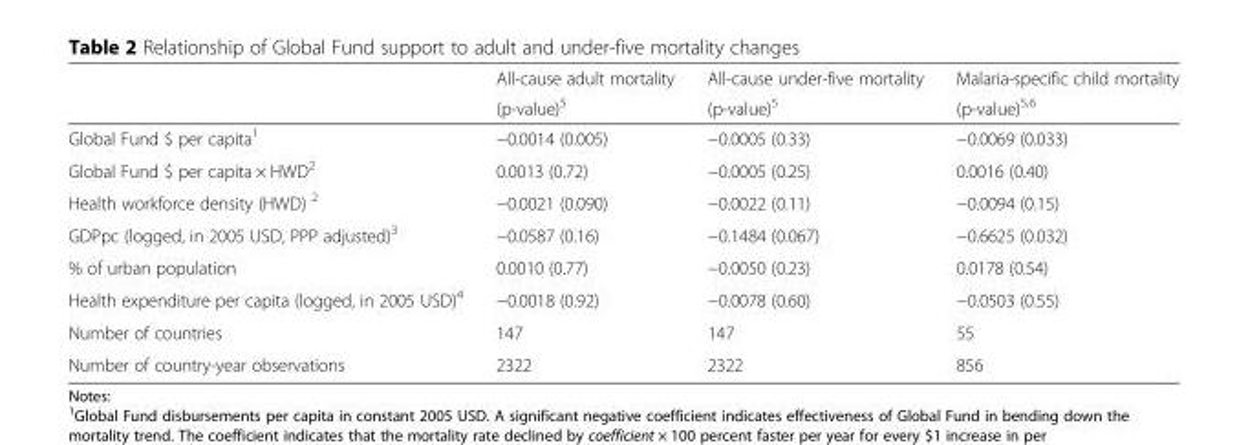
<table><thead><tr><td rowspan="2"></td><td rowspan="2">All-cause adult mortality (p-value)<sup>5</sup></td><td rowspan="2">All-cause under-five mortality (p-value)<sup>5</sup></td><td rowspan="2">Malaria-specific child mortality (p-value)<sup>5,6</sup></td></tr><tr></tr></thead><tbody><tr><td>Global Fund $ per capita<sup>1</sup></td><td>−0.0014 (0.005)</td><td>−0.0005 (0.33)</td><td>−0.0069 (0.033)</td></tr><tr><td>Global Fund $ per capita × HWD<sup>2</sup></td><td>0.0013 (0.72)</td><td>−0.0005 (0.25)</td><td>0.0016 (0.40)</td></tr><tr><td>Health workforce density (HWD) <sup>2</sup></td><td>−0.0021 (0.090)</td><td>−0.0022 (0.11)</td><td>−0.0094 (0.15)</td></tr><tr><td>GDPpc (logged, in 2005 USD, PPP adjusted)<sup>3</sup></td><td>−0.0587 (0.16)</td><td>−0.1484 (0.067)</td><td>−0.6625 (0.032)</td></tr><tr><td>% of urban population</td><td>0.0010 (0.77)</td><td>−0.0050 (0.23)</td><td>0.0178 (0.54)</td></tr><tr><td>Health expenditure per capita (logged, in 2005 USD)<sup>4</sup></td><td>−0.0018 (0.92)</td><td>−0.0078 (0.60)</td><td>−0.0503 (0.55)</td></tr><tr><td>Number of countries</td><td>147</td><td>147</td><td>55</td></tr><tr><td>Number of country-year observations</td><td>2322</td><td>2322</td><td>856</td></tr></tbody></table>